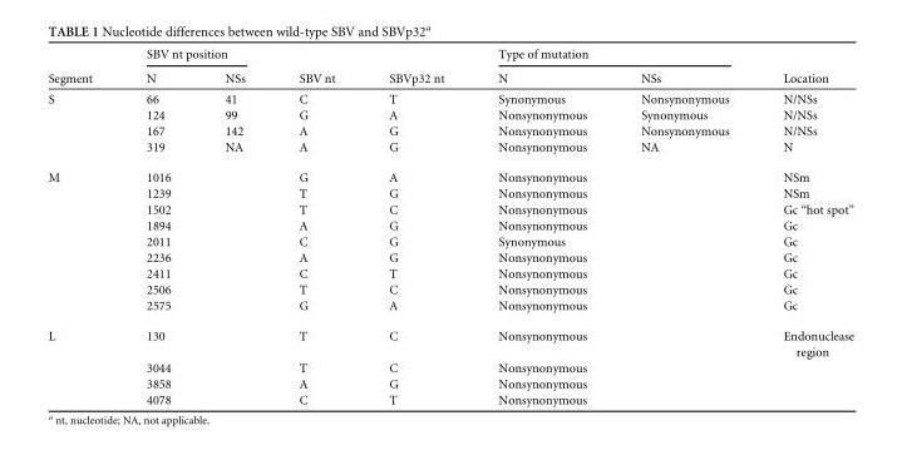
<table><thead><tr><td rowspan="2">Segment</td><td colspan="2">SBV nt position</td><td rowspan="2">SBV nt</td><td rowspan="2">SBVp32 nt</td><td colspan="2">Type of mutation</td><td rowspan="2">Location</td></tr><tr><td>N</td><td>NSs</td><td>N</td><td>NSs</td></tr></thead><tbody><tr><td rowspan="4">S</td><td>66</td><td>41</td><td>C</td><td>T</td><td>Synonymous</td><td>Nonsynonymous</td><td>N/NSs</td></tr><tr><td>124</td><td>99</td><td>G</td><td>A</td><td>Nonsynonymous</td><td>Synonymous</td><td>N/NSs</td></tr><tr><td>167</td><td>142</td><td>A</td><td>G</td><td>Nonsynonymous</td><td>Nonsynonymous</td><td>N/NSs</td></tr><tr><td>319</td><td>NA</td><td>A</td><td>G</td><td>Nonsynonymous</td><td>NA</td><td>N</td></tr><tr><td rowspan="9">M</td><td>1016</td><td></td><td>G</td><td>A</td><td>Nonsynonymous</td><td></td><td>NSm</td></tr><tr><td>1239</td><td></td><td>T</td><td>G</td><td>Nonsynonymous</td><td></td><td>NSm</td></tr><tr><td>1502</td><td></td><td>T</td><td>C</td><td>Nonsynonymous</td><td></td><td>Gc “hot spot”</td></tr><tr><td>1894</td><td></td><td>A</td><td>G</td><td>Nonsynonymous</td><td></td><td>Gc</td></tr><tr><td>2011</td><td></td><td>C</td><td>G</td><td>Synonymous</td><td></td><td>Gc</td></tr><tr><td>2236</td><td></td><td>A</td><td>G</td><td>Nonsynonymous</td><td></td><td>Gc</td></tr><tr><td>2411</td><td></td><td>C</td><td>T</td><td>Nonsynonymous</td><td></td><td>Gc</td></tr><tr><td>2506</td><td></td><td>T</td><td>C</td><td>Nonsynonymous</td><td></td><td>Gc</td></tr><tr><td>2575</td><td></td><td>G</td><td>A</td><td>Nonsynonymous</td><td></td><td>Gc</td></tr><tr><td rowspan="4">L</td><td>130</td><td></td><td>T</td><td>C</td><td>Nonsynonymous</td><td></td><td>Endonuclease region</td></tr><tr><td>3044</td><td></td><td>T</td><td>C</td><td>Nonsynonymous</td><td></td><td></td></tr><tr><td>3858</td><td></td><td>A</td><td>G</td><td>Nonsynonymous</td><td></td><td></td></tr><tr><td>4078</td><td></td><td>C</td><td>T</td><td>Nonsynonymous</td><td></td><td></td></tr></tbody></table>